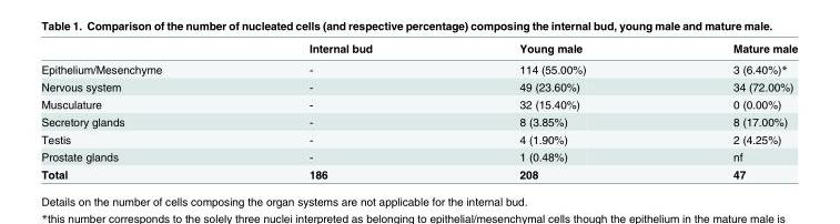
<table><thead><tr><td></td><td>Internal bud</td><td>Young male</td><td>Mature male</td></tr></thead><tbody><tr><td>Epithelium/Mesenchyme</td><td>-</td><td>114 (55.00%)</td><td>3 (6.40%)*</td></tr><tr><td>Nervous system</td><td>-</td><td>49 (23.60%)</td><td>34 (72.00%)</td></tr><tr><td>Musculature</td><td>-</td><td>32 (15.40%)</td><td>0 (0.00%)</td></tr><tr><td>Secretory glands</td><td>-</td><td>8 (3.85%)</td><td>8 (17.00%)</td></tr><tr><td>Testis</td><td>-</td><td>4 (1.90%)</td><td>2 (4.25%)</td></tr><tr><td>Prostate glands</td><td>-</td><td>1 (0.48%)</td><td>nf</td></tr><tr><td>Total</td><td>186</td><td>208</td><td>47</td></tr></tbody></table>